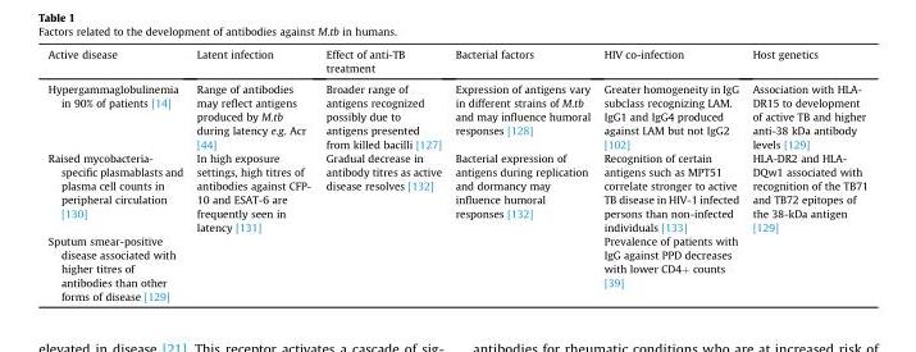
<table><thead><tr><td>Active disease</td><td>Latent infection</td><td>Effect of anti-TB treatment</td><td>Bacterial factors</td><td>HIV co-infection</td><td>Host genetics</td></tr></thead><tbody><tr><td>Hypergammaglobulinemia in 90% of patients [14]</td><td>Range of antibodies may reflect antigens produced by M.tb during latency e.g. Acr [44]</td><td>Broader range of antigens recognized possibly due to antigens presented from killed bacilli [127]</td><td>Expression of antigens vary in different strains of M.tb and may influence humoral responses [128]</td><td>Greater homogeneity in IgG subclass recognizing LAM. IgG1 and IgG4 produced against LAM but not IgG2 [102]</td><td>Association with HLA- DR15 to development of active TB and higher anti-38 kDa antibody levels [129]</td></tr><tr><td>Raised mycobacteria- specific plasmablasts and plasma cell counts in peripheral circulation [130]</td><td>In high exposure settings, high titres of antibodies against CFP- 10 and ESAT-6 are frequently seen in latency [131]</td><td>Gradual decrease in antibody titres as active disease resolves [132]</td><td>Bacterial expression of antigens during replication and dormancy may influence humoral responses [132]</td><td>Recognition of certain antigens such as MPT51 correlate stronger to active TB disease in HIV-1 infected persons than non-infected individuals [133]</td><td>HLA-DR2 and HLA- DQw1 associated with recognition of the TB71 and TB72 epitopes of the 38-kDa antigen [129]</td></tr><tr><td>Sputum smear-positive disease associated with higher titres of antibodies than other forms of disease [129]</td><td></td><td></td><td></td><td>Prevalence of patients with IgG against PPD decreases with lower CD4+ counts [39]</td><td></td></tr></tbody></table>